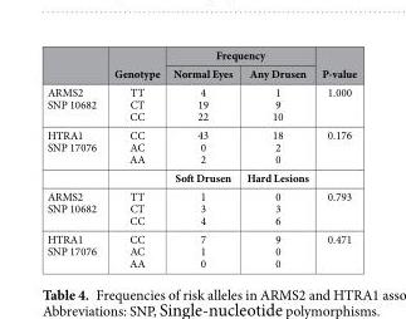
<table><thead><tr><td rowspan="2"></td><td rowspan="2">Genotype</td><td colspan="2">Frequency</td><td rowspan="2">P-value</td></tr><tr><td>Normal Eyes</td><td>Any Drusen</td></tr></thead><tbody><tr><td>ARMS2 SNP 10682</td><td>TT CT CC</td><td>4 19 22</td><td>1 9 10</td><td>1.000</td></tr><tr><td rowspan="2">HTRA1 SNP 17076</td><td>CC AC AA</td><td>43 0 2</td><td>18 2 0</td><td>0.176</td></tr><tr><td></td><td>Soft Drusen</td><td>Hard Lesions</td><td></td></tr><tr><td>ARMS2 SNP 10682</td><td>TT CT CC</td><td>1 3 4</td><td>0 3 6</td><td>0.793</td></tr><tr><td>HTRA1 SNP 17076</td><td>CC AC AA</td><td>7 1 0</td><td>9 0 0</td><td>0.471</td></tr></tbody></table>